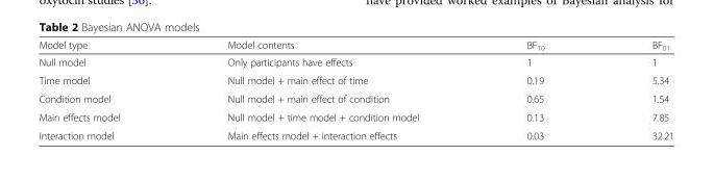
<table><thead><tr><td>Model type</td><td>Model contents</td><td>BF<sub>10</sub></td><td>BF<sub>01</sub></td></tr></thead><tbody><tr><td>Null model</td><td>Only participants have effects</td><td>1</td><td>1</td></tr><tr><td>Time model</td><td>Null model + main effect of time</td><td>0.19</td><td>5.34</td></tr><tr><td>Condition model</td><td>Null model + main effect of condition</td><td>0.65</td><td>1.54</td></tr><tr><td>Main effects model</td><td>Null model + time model + condition model</td><td>0.13</td><td>7.85</td></tr><tr><td>Interaction model</td><td>Main effects model + interaction effects</td><td>0.03</td><td>32.21</td></tr></tbody></table>